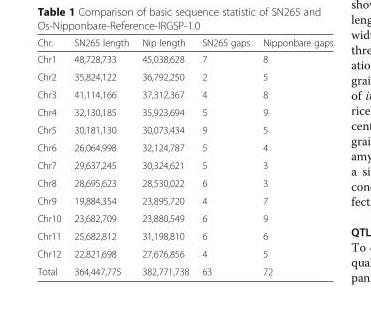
<table><thead><tr><td>Chr.</td><td>SN265 length</td><td>Nip length</td><td>SN265 gaps</td><td>Nipponbare gaps</td></tr></thead><tbody><tr><td>Chr1</td><td>48,728,733</td><td>45,038,628</td><td>7</td><td>8</td></tr><tr><td>Chr2</td><td>35,824,122</td><td>36,792,250</td><td>2</td><td>5</td></tr><tr><td>Chr3</td><td>41,114,166</td><td>37,312,367</td><td>4</td><td>8</td></tr><tr><td>Chr4</td><td>32,130,185</td><td>35,923,694</td><td>5</td><td>9</td></tr><tr><td>Chr5</td><td>30,181,130</td><td>30,073,434</td><td>9</td><td>5</td></tr><tr><td>Chr6</td><td>26,064,998</td><td>32,124,787</td><td>5</td><td>4</td></tr><tr><td>Chr7</td><td>29,637,245</td><td>30,324,621</td><td>5</td><td>3</td></tr><tr><td>Chr8</td><td>28,695,623</td><td>28,530,022</td><td>6</td><td>3</td></tr><tr><td>Chr9</td><td>19,884,354</td><td>23,895,720</td><td>4</td><td>7</td></tr><tr><td>Chr10</td><td>23,682,709</td><td>23,880,549</td><td>6</td><td>9</td></tr><tr><td>Chr11</td><td>25,682,812</td><td>31,198,810</td><td>6</td><td>6</td></tr><tr><td>Chr12</td><td>22,821,698</td><td>27,676,856</td><td>4</td><td>5</td></tr><tr><td>Total</td><td>364,447,775</td><td>382,771,738</td><td>63</td><td>72</td></tr></tbody></table>